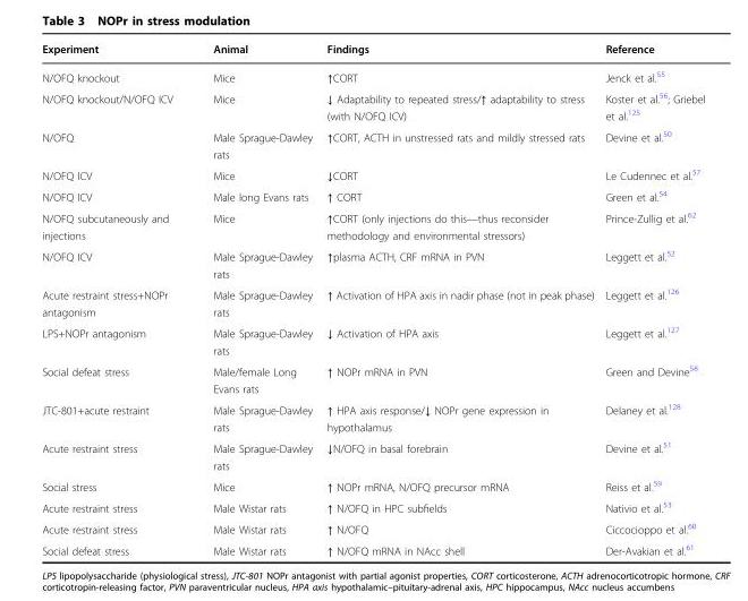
<table><thead><tr><td>Experiment</td><td>Animal</td><td>Findings</td><td>Reference</td></tr></thead><tbody><tr><td>N/OFQ knockout</td><td>Mice</td><td>↑CORT</td><td>Jenck et al.<sup>55</sup></td></tr><tr><td>N/OFQ knockout/N/OFQ ICV</td><td>Mice</td><td>↓ Adaptability to repeated stress/↑ adaptability to stress (with N/OFQ ICV)</td><td>Koster et al.<sup>56</sup>; Griebel et al.<sup>125</sup></td></tr><tr><td>N/OFQ</td><td>Male Sprague-Dawley rats</td><td>↑CORT, ACTH in unstressed rats and mildly stressed rats</td><td>Devine et al.<sup>50</sup></td></tr><tr><td>N/OFQ ICV</td><td>Mice</td><td>↓CORT</td><td>Le Cudennec et al.<sup>57</sup></td></tr><tr><td>N/OFQ ICV</td><td>Male long Evans rats</td><td>↑ CORT</td><td>Green et al.<sup>54</sup></td></tr><tr><td>N/OFQ subcutaneously and injections</td><td>Mice</td><td>↑CORT (only injections do this—thus reconsider methodology and environmental stressors)</td><td>Prince-Zullig et al.<sup>62</sup></td></tr><tr><td>N/OFQ ICV</td><td>Male Sprague-Dawley rats</td><td>↑plasma ACTH, CRF mRNA in PVN</td><td>Leggett et al.<sup>52</sup></td></tr><tr><td>Acute restraint stress+NOPr antagonism</td><td>Male Sprague-Dawley rats</td><td>↑ Activation of HPA axis in nadir phase (not in peak phase)</td><td>Leggett et al.<sup>126</sup></td></tr><tr><td>LPS+NOPr antagonism</td><td>Male Sprague-Dawley rats</td><td>↓ Activation of HPA axis</td><td>Leggett et al.<sup>127</sup></td></tr><tr><td>Social defeat stress</td><td>Male/female Long Evans rats</td><td>↑ NOPr mRNA in PVN</td><td>Green and Devine<sup>58</sup></td></tr><tr><td>JTC-801+acute restraint</td><td>Male Sprague-Dawley rats</td><td>↑ HPA axis response/↓ NOPr gene expression in hypothalamus</td><td>Delaney et al.<sup>128</sup></td></tr><tr><td>Acute restraint stress</td><td>Male Sprague-Dawley rats</td><td>↓N/OFQ in basal forebrain</td><td>Devine et al.<sup>51</sup></td></tr><tr><td>Social stress</td><td>Mice</td><td>↑ NOPr mRNA, N/OFQ precursor mRNA</td><td>Reiss et al.<sup>59</sup></td></tr><tr><td>Acute restraint stress</td><td>Male Wistar rats</td><td>↑ N/OFQ in HPC subfields</td><td>Nativio et al.<sup>53</sup></td></tr><tr><td>Acute restraint stress</td><td>Male Wistar rats</td><td>↑ N/OFQ</td><td>Ciccocioppo et al.<sup>60</sup></td></tr><tr><td>Social defeat stress</td><td>Male Wistar rats</td><td>↑ N/OFQ mRNA in NAcc shell</td><td>Der-Avakian et al.<sup>61</sup></td></tr></tbody></table>